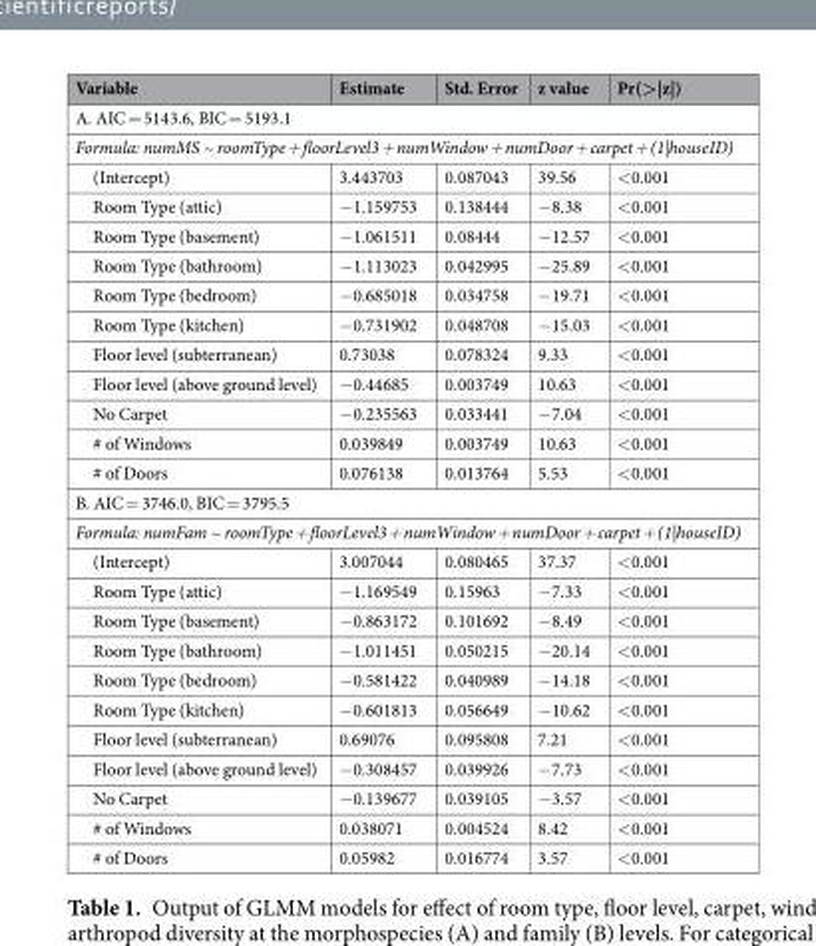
<table><thead><tr><td>Variable</td><td>Estimate</td><td>Std. Error</td><td>z value</td><td>Pr(&gt;|z|)</td></tr></thead><tbody><tr><td colspan="5">A. AIC = 5143.6, BIC = 5193.1</td></tr><tr><td colspan="5">Formula: numMS ~ roomType + floorLevel3 + numWindow + numDoor + carpet + (1|houseID)</td></tr><tr><td>(Intercept)</td><td>3.443703</td><td>0.087043</td><td>39.56</td><td>&lt;0.001</td></tr><tr><td>Room Type (attic)</td><td>−1.159753</td><td>0.138444</td><td>−8.38</td><td>&lt;0.001</td></tr><tr><td>Room Type (basement)</td><td>−1.061511</td><td>0.08444</td><td>−12.57</td><td>&lt;0.001</td></tr><tr><td>Room Type (bathroom)</td><td>−1.113023</td><td>0.042995</td><td>−25.89</td><td>&lt;0.001</td></tr><tr><td>Room Type (bedroom)</td><td>−0.685018</td><td>0.034758</td><td>−19.71</td><td>&lt;0.001</td></tr><tr><td>Room Type (kitchen)</td><td>−0.731902</td><td>0.048708</td><td>−15.03</td><td>&lt;0.001</td></tr><tr><td>Floor level (subterranean)</td><td>0.73038</td><td>0.078324</td><td>9.33</td><td>&lt;0.001</td></tr><tr><td>Floor level (above ground level)</td><td>−0.44685</td><td>0.003749</td><td>10.63</td><td>&lt;0.001</td></tr><tr><td>No Carpet</td><td>−0.235563</td><td>0.033441</td><td>−7.04</td><td>&lt;0.001</td></tr><tr><td># of Windows</td><td>0.039849</td><td>0.003749</td><td>10.63</td><td>&lt;0.001</td></tr><tr><td># of Doors</td><td>0.076138</td><td>0.013764</td><td>5.53</td><td>&lt;0.001</td></tr><tr><td colspan="5">B. AIC = 3746.0, BIC = 3795.5</td></tr><tr><td colspan="5">Formula: numFam ~ roomType + floorLevel3 + numWindow + numDoor + carpet + (1|houseID)</td></tr><tr><td>(Intercept)</td><td>3.007044</td><td>0.080465</td><td>37.37</td><td>&lt;0.001</td></tr><tr><td>Room Type (attic)</td><td>−1.169549</td><td>0.15963</td><td>−7.33</td><td>&lt;0.001</td></tr><tr><td>Room Type (basement)</td><td>−0.863172</td><td>0.101692</td><td>−8.49</td><td>&lt;0.001</td></tr><tr><td>Room Type (bathroom)</td><td>−1.011451</td><td>0.050215</td><td>−20.14</td><td>&lt;0.001</td></tr><tr><td>Room Type (bedroom)</td><td>−0.581422</td><td>0.040989</td><td>−14.18</td><td>&lt;0.001</td></tr><tr><td>Room Type (kitchen)</td><td>−0.601813</td><td>0.056649</td><td>−10.62</td><td>&lt;0.001</td></tr><tr><td>Floor level (subterranean)</td><td>0.69076</td><td>0.095808</td><td>7.21</td><td>&lt;0.001</td></tr><tr><td>Floor level (above ground level)</td><td>−0.308457</td><td>0.039926</td><td>−7.73</td><td>&lt;0.001</td></tr><tr><td>No Carpet</td><td>−0.139677</td><td>0.039105</td><td>−3.57</td><td>&lt;0.001</td></tr><tr><td># of Windows</td><td>0.038071</td><td>0.004524</td><td>8.42</td><td>&lt;0.001</td></tr><tr><td># of Doors</td><td>0.05982</td><td>0.016774</td><td>3.57</td><td>&lt;0.001</td></tr></tbody></table>